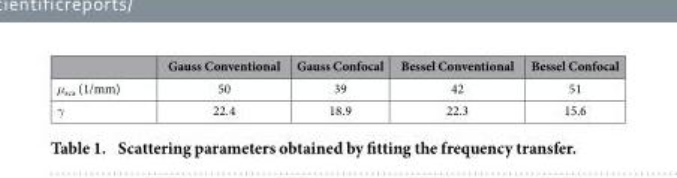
<table><thead><tr><td></td><td>Gauss Conventional</td><td>Gauss Confocal</td><td>Bessel Conventional</td><td>Bessel Confocal</td></tr></thead><tbody><tr><td>μ<sub>sca</sub> (1/mm)</td><td>50</td><td>39</td><td>42</td><td>51</td></tr><tr><td>γ</td><td>22.4</td><td>18.9</td><td>22.3</td><td>15.6</td></tr></tbody></table>